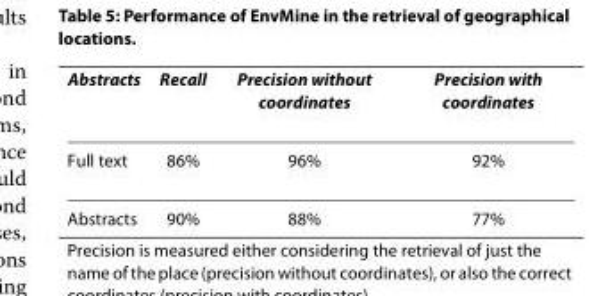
<table><thead><tr><td>Abstracts</td><td>Recall</td><td>Precision without coordinates</td><td>Precision with coordinates</td></tr></thead><tbody><tr><td>Full text</td><td>86%</td><td>96%</td><td>92%</td></tr><tr><td>Abstracts</td><td>90%</td><td>88%</td><td>77%</td></tr></tbody></table>